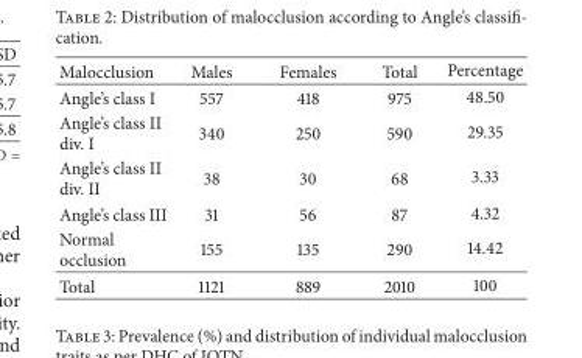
<table><thead><tr><td>Malocclusion</td><td>Males</td><td>Females</td><td>Total</td><td>Percentage</td></tr></thead><tbody><tr><td>Angle’s class I</td><td>557</td><td>418</td><td>975</td><td>48.50</td></tr><tr><td>Angle’s class II div. I</td><td>340</td><td>250</td><td>590</td><td>29.35</td></tr><tr><td>Angle’s class II div. II</td><td>38</td><td>30</td><td>68</td><td>3.33</td></tr><tr><td>Angle’s class III</td><td>31</td><td>56</td><td>87</td><td>4.32</td></tr><tr><td>Normal occlusion</td><td>155</td><td>135</td><td>290</td><td>14.42</td></tr><tr><td>Total</td><td>1121</td><td>889</td><td>2010</td><td>100</td></tr></tbody></table>